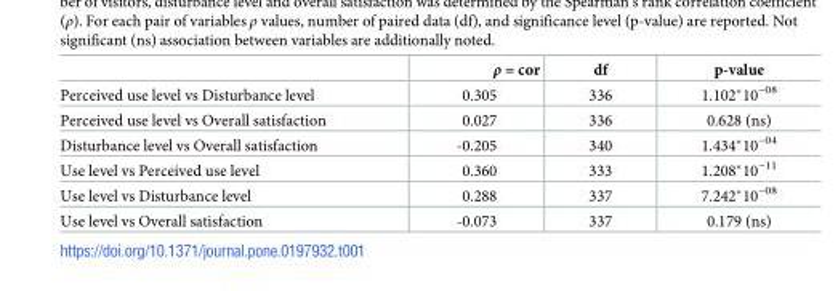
<table><thead><tr><td></td><td>ρ = cor</td><td>df</td><td>p-value</td></tr></thead><tbody><tr><td>Perceived use level vs Disturbance level</td><td>0.305</td><td>336</td><td>1.102*10<sup>−08</sup></td></tr><tr><td>Perceived use level vs Overall satisfaction</td><td>0.027</td><td>336</td><td>0.628 (ns)</td></tr><tr><td>Disturbance level vs Overall satisfaction</td><td>-0.205</td><td>340</td><td>1.434*10<sup>−04</sup></td></tr><tr><td>Use level vs Perceived use level</td><td>0.360</td><td>333</td><td>1.208*10<sup>−11</sup></td></tr><tr><td>Use level vs Disturbance level</td><td>0.288</td><td>337</td><td>7.242*10<sup>−08</sup></td></tr><tr><td>Use level vs Overall satisfaction</td><td>-0.073</td><td>337</td><td>0.179 (ns)</td></tr></tbody></table>